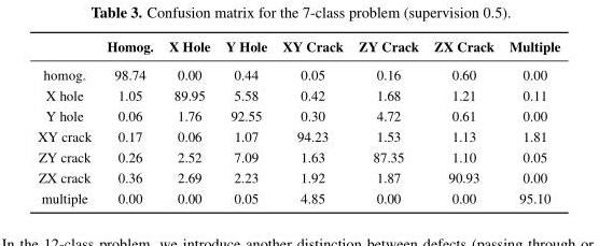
<table><thead><tr><td></td><td>Homog.</td><td>X Hole</td><td>Y Hole</td><td>XY Crack</td><td>ZY Crack</td><td>ZX Crack</td><td>Multiple</td></tr></thead><tbody><tr><td>homog.</td><td>98.74</td><td>0.00</td><td>0.44</td><td>0.05</td><td>0.16</td><td>0.60</td><td>0.00</td></tr><tr><td>X hole</td><td>1.05</td><td>89.95</td><td>5.58</td><td>0.42</td><td>1.68</td><td>1.21</td><td>0.11</td></tr><tr><td>Y hole</td><td>0.06</td><td>1.76</td><td>92.55</td><td>0.30</td><td>4.72</td><td>0.61</td><td>0.00</td></tr><tr><td>XY crack</td><td>0.17</td><td>0.06</td><td>1.07</td><td>94.23</td><td>1.53</td><td>1.13</td><td>1.81</td></tr><tr><td>ZY crack</td><td>0.26</td><td>2.52</td><td>7.09</td><td>1.63</td><td>87.35</td><td>1.10</td><td>0.05</td></tr><tr><td>ZX crack</td><td>0.36</td><td>2.69</td><td>2.23</td><td>1.92</td><td>1.87</td><td>90.93</td><td>0.00</td></tr><tr><td>multiple</td><td>0.00</td><td>0.00</td><td>0.05</td><td>4.85</td><td>0.00</td><td>0.00</td><td>95.10</td></tr></tbody></table>